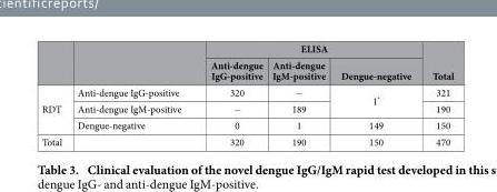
<table><thead><tr><td rowspan="2"></td><td rowspan="2"></td><td colspan="3">ELISA</td><td rowspan="2">Total</td></tr><tr><td>Anti-dengue IgG-positive</td><td>Anti-dengue IgM-positive</td><td>Dengue-negative</td></tr></thead><tbody><tr><td rowspan="3">RDT</td><td>Anti-dengue IgG-positive</td><td>320</td><td>−</td><td rowspan="2">1*</td><td>321</td></tr><tr><td>Anti-dengue IgM-positive</td><td>−</td><td>189</td><td>190</td></tr><tr><td>Dengue-negative</td><td>0</td><td>1</td><td>149</td><td>150</td></tr><tr><td>Total</td><td></td><td>320</td><td>190</td><td>150</td><td>470</td></tr></tbody></table>